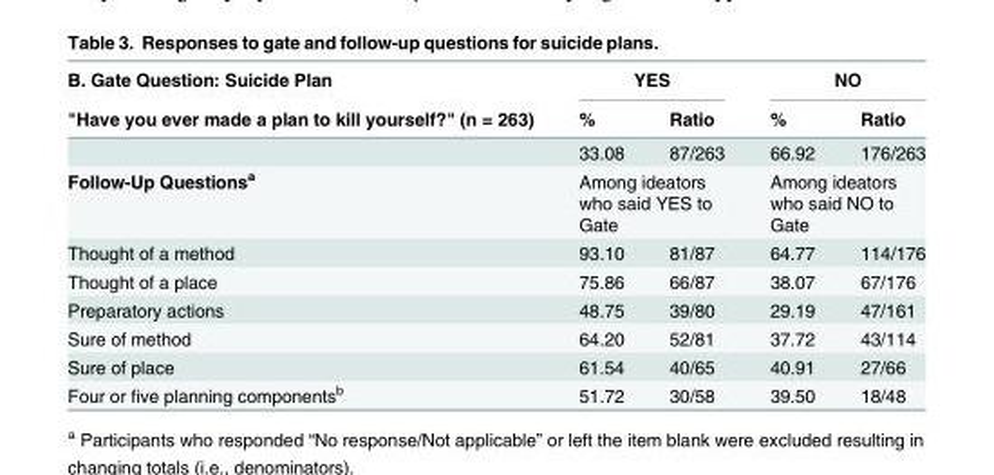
<table><thead><tr><td rowspan="2">B. Gate Question: Suicide Plan &quot;Have you ever made a plan to kill yourself?&quot; (n = 263)</td><td colspan="2">YES</td><td colspan="2">NO</td></tr><tr><td>%</td><td>Ratio</td><td>%</td><td>Ratio</td></tr></thead><tbody><tr><td></td><td>33.08</td><td>87/263</td><td>66.92</td><td>176/263</td></tr><tr><td>Follow-Up Questions<sup>a</sup></td><td colspan="2">Among ideators who said YES to Gate</td><td colspan="2">Among ideators who said NO to Gate</td></tr><tr><td>Thought of a method</td><td>93.10</td><td>81/87</td><td>64.77</td><td>114/176</td></tr><tr><td>Thought of a place</td><td>75.86</td><td>66/87</td><td>38.07</td><td>67/176</td></tr><tr><td>Preparatory actions</td><td>48.75</td><td>39/80</td><td>29.19</td><td>47/161</td></tr><tr><td>Sure of method</td><td>64.20</td><td>52/81</td><td>37.72</td><td>43/114</td></tr><tr><td>Sure of place</td><td>61.54</td><td>40/65</td><td>40.91</td><td>27/66</td></tr><tr><td>Four or five planning components<sup>b</sup></td><td>51.72</td><td>30/58</td><td>39.50</td><td>18/48</td></tr></tbody></table>